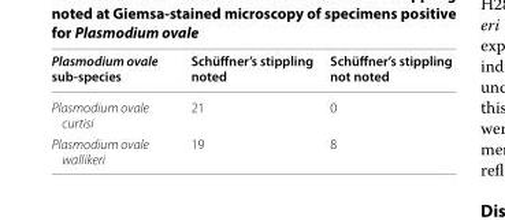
<table><thead><tr><td>Plasmodium ovale sub‑species</td><td>Schüffner’s stippling noted</td><td>Schüffner’s stippling not noted</td></tr></thead><tbody><tr><td>Plasmodium ovale curtisi</td><td>21</td><td>0</td></tr><tr><td>Plasmodium ovale wallikeri</td><td>19</td><td>8</td></tr></tbody></table>